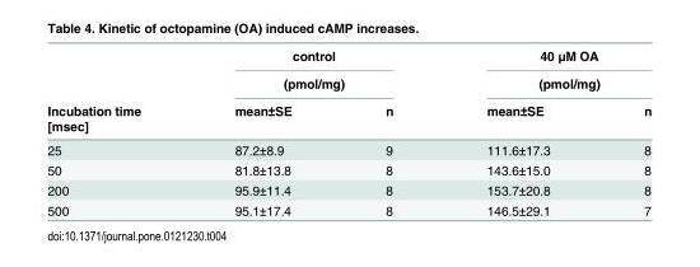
<table><thead><tr><td rowspan="4">Incubation time [msec]</td><td rowspan="2" colspan="2">control (pmol/mg)</td><td rowspan="2" colspan="2">40 μM OA (pmol/mg)</td></tr><tr></tr><tr><td rowspan="2">mean±SE</td><td rowspan="2">n</td><td rowspan="2">mean±SE</td><td rowspan="2">n</td></tr><tr></tr></thead><tbody><tr><td>25</td><td>87.2±8.9</td><td>9</td><td>111.6±17.3</td><td>8</td></tr><tr><td>50</td><td>81.8±13.8</td><td>8</td><td>143.6±15.0</td><td>8</td></tr><tr><td>200</td><td>95.9±11.4</td><td>8</td><td>153.7±20.8</td><td>8</td></tr><tr><td>500</td><td>95.1±17.4</td><td>8</td><td>146.5±29.1</td><td>7</td></tr></tbody></table>